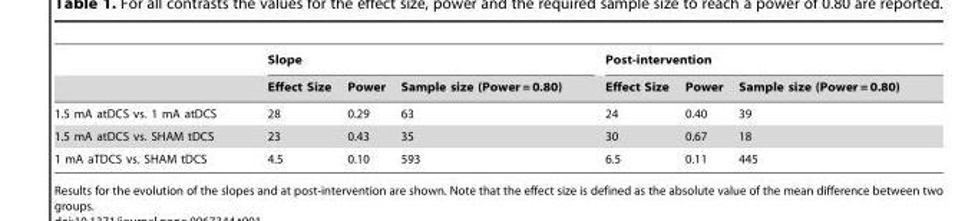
<table><thead><tr><td rowspan="2"></td><td colspan="3">Slope</td><td colspan="3">Post-intervention</td></tr><tr><td>Effect Size</td><td>Power</td><td>Sample size (Power = 0.80)</td><td>Effect Size</td><td>Power</td><td>Sample size (Power = 0.80)</td></tr></thead><tbody><tr><td>1.5 mA atDCS vs. 1 mA atDCS</td><td>28</td><td>0.29</td><td>63</td><td>24</td><td>0.40</td><td>39</td></tr><tr><td>1.5 mA atDCS vs. SHAM tDCS</td><td>23</td><td>0.43</td><td>35</td><td>30</td><td>0.67</td><td>18</td></tr><tr><td>1 mA aTDCS vs. SHAM tDCS</td><td>4.5</td><td>0.10</td><td>593</td><td>6.5</td><td>0.11</td><td>445</td></tr></tbody></table>